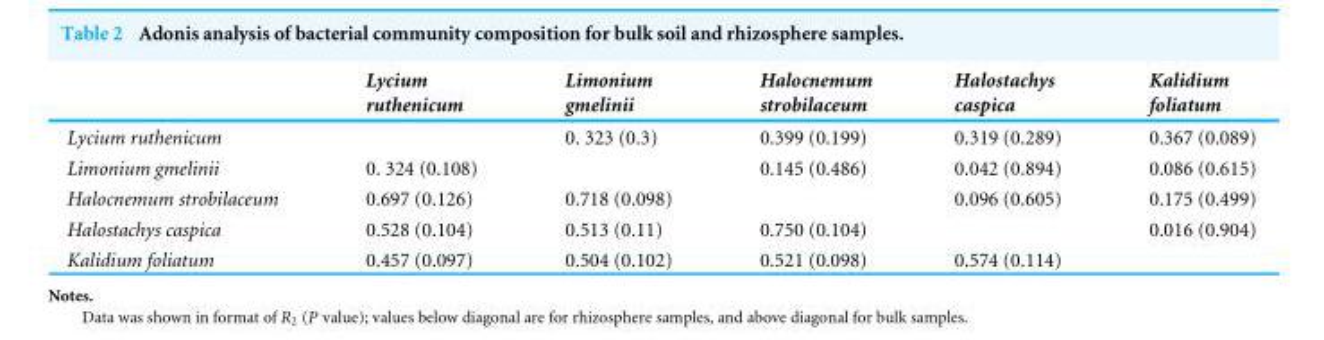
<table><thead><tr><td></td><td>Lycium ruthenicum</td><td>Limonium gmelinii</td><td>Halocnemum strobilaceum</td><td>Halostachys caspica</td><td>Kalidium foliatum</td></tr></thead><tbody><tr><td>Lycium ruthenicum</td><td></td><td>0. 323 (0.3)</td><td>0.399 (0.199)</td><td>0.319 (0.289)</td><td>0.367 (0.089)</td></tr><tr><td>Limonium gmelinii</td><td>0. 324 (0.108)</td><td></td><td>0.145 (0.486)</td><td>0.042 (0.894)</td><td>0.086 (0.615)</td></tr><tr><td>Halocnemum strobilaceum</td><td>0.697 (0.126)</td><td>0.718 (0.098)</td><td></td><td>0.096 (0.605)</td><td>0.175 (0.499)</td></tr><tr><td>Halostachys caspica</td><td>0.528 (0.104)</td><td>0.513 (0.11)</td><td>0.750 (0.104)</td><td></td><td>0.016 (0.904)</td></tr><tr><td>Kalidium foliatum</td><td>0.457 (0.097)</td><td>0.504 (0.102)</td><td>0.521 (0.098)</td><td>0.574 (0.114)</td><td></td></tr></tbody></table>